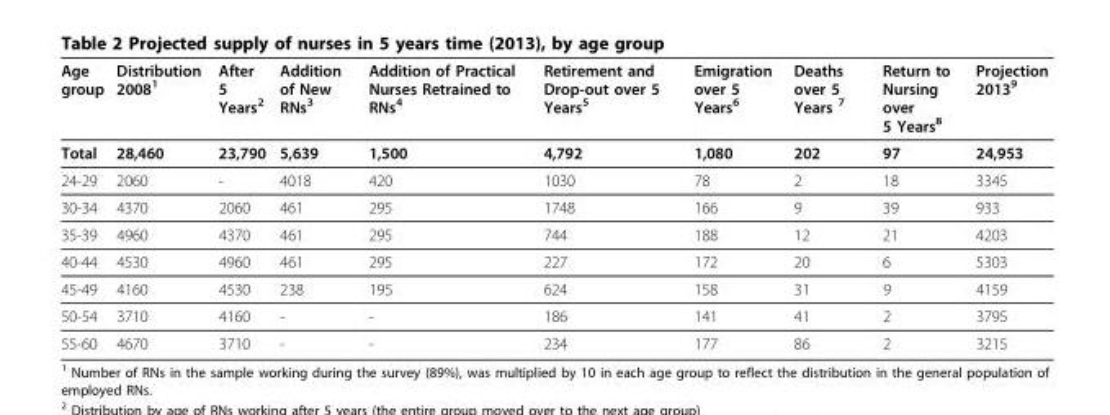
<table><thead><tr><td>Age group</td><td>Distribution 2008<sup>1</sup></td><td>After 5 Years<sup>2</sup></td><td>Addition of New RNs<sup>3</sup></td><td>Addition of Practical Nurses Retrained to RNs<sup>4</sup></td><td>Retirement and Drop-out over 5 Years<sup>5</sup></td><td>Emigration over 5 Years<sup>6</sup></td><td>Deaths over 5 Years <sup>7</sup></td><td>Return to Nursing over 5 Years<sup>8</sup></td><td>Projection 2013<sup>9</sup></td></tr></thead><tbody><tr><td>Total</td><td>28,460</td><td>23,790</td><td>5,639</td><td>1,500</td><td>4,792</td><td>1,080</td><td>202</td><td>97</td><td>24,953</td></tr><tr><td>24-29</td><td>2060</td><td>-</td><td>4018</td><td>420</td><td>1030</td><td>78</td><td>2</td><td>18</td><td>3345</td></tr><tr><td>30-34</td><td>4370</td><td>2060</td><td>461</td><td>295</td><td>1748</td><td>166</td><td>9</td><td>39</td><td>933</td></tr><tr><td>35-39</td><td>4960</td><td>4370</td><td>461</td><td>295</td><td>744</td><td>188</td><td>12</td><td>21</td><td>4203</td></tr><tr><td>40-44</td><td>4530</td><td>4960</td><td>461</td><td>295</td><td>227</td><td>172</td><td>20</td><td>6</td><td>5303</td></tr><tr><td>45-49</td><td>4160</td><td>4530</td><td>238</td><td>195</td><td>624</td><td>158</td><td>31</td><td>9</td><td>4159</td></tr><tr><td>50-54</td><td>3710</td><td>4160</td><td>-</td><td>-</td><td>186</td><td>141</td><td>41</td><td>2</td><td>3795</td></tr><tr><td>55-60</td><td>4670</td><td>3710</td><td>-</td><td>-</td><td>234</td><td>177</td><td>86</td><td>2</td><td>3215</td></tr></tbody></table>